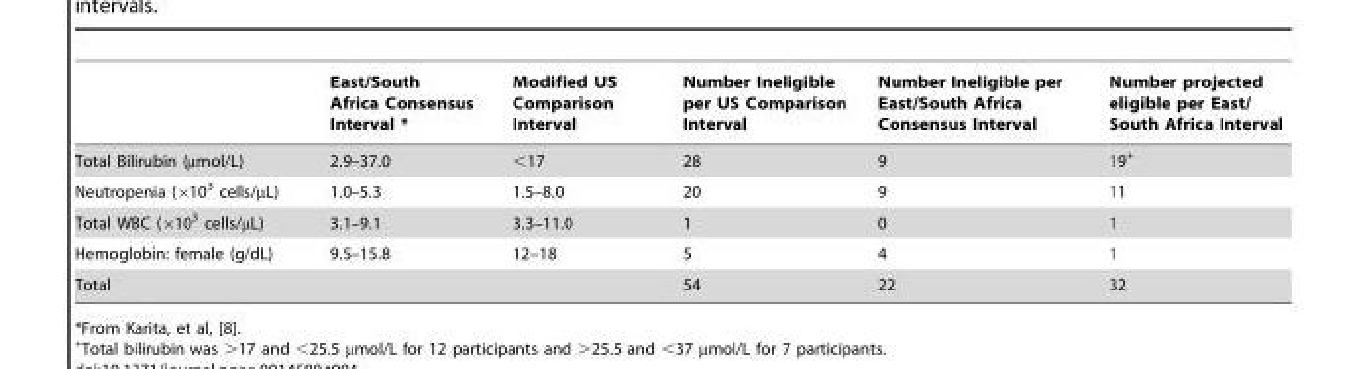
<table><thead><tr><td></td><td>East/South Africa Consensus Interval *</td><td>Modified US Comparison Interval</td><td>Number Ineligible per US Comparison Interval</td><td>Number Ineligible per East/South Africa Consensus Interval</td><td>Number projected eligible per East/ South Africa Interval</td></tr></thead><tbody><tr><td>Total Bilirubin (µmol/L)</td><td>2.9–37.0</td><td>&lt;17</td><td>28</td><td>9</td><td>19+</td></tr><tr><td>Neutropenia (×10<sup>3</sup> cells/µL)</td><td>1.0–5.3</td><td>1.5–8.0</td><td>20</td><td>9</td><td>11</td></tr><tr><td>Total WBC (×10<sup>3</sup> cells/µL)</td><td>3.1–9.1</td><td>3.3–11.0</td><td>1</td><td>0</td><td>1</td></tr><tr><td>Hemoglobin: female (g/dL)</td><td>9.5–15.8</td><td>12–18</td><td>5</td><td>4</td><td>1</td></tr><tr><td>Total</td><td></td><td></td><td>54</td><td>22</td><td>32</td></tr></tbody></table>